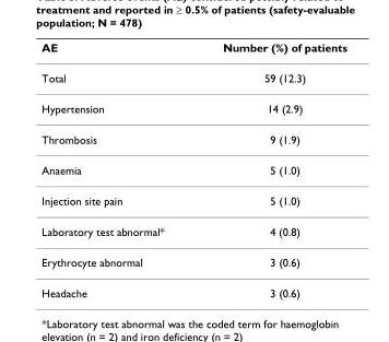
<table><thead><tr><td>AE</td><td>Number (%) of patients</td></tr></thead><tbody><tr><td>Total</td><td>59 (12.3)</td></tr><tr><td>Hypertension</td><td>14 (2.9)</td></tr><tr><td>Thrombosis</td><td>9 (1.9)</td></tr><tr><td>Anaemia</td><td>5 (1.0)</td></tr><tr><td>Injection site pain</td><td>5 (1.0)</td></tr><tr><td>Laboratory test abnormal*</td><td>4 (0.8)</td></tr><tr><td>Erythrocyte abnormal</td><td>3 (0.6)</td></tr><tr><td>Headache</td><td>3 (0.6)</td></tr></tbody></table>